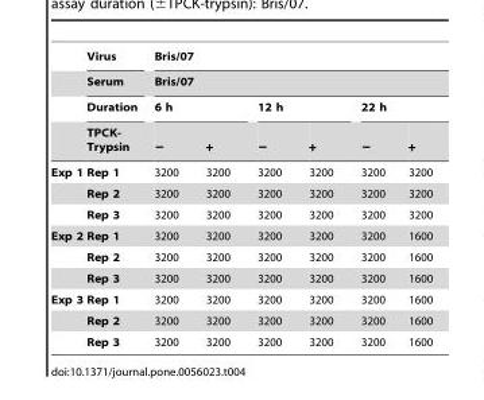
<table><thead><tr><td rowspan="4"></td><td rowspan="4">Virus Serum Duration TPCK- Trypsin</td><td rowspan="2" colspan="6">Bris/07 Bris/07</td></tr><tr></tr><tr><td colspan="2">6 h</td><td colspan="2">12 h</td><td colspan="2">22 h</td></tr><tr><td>−</td><td>+</td><td>−</td><td>+</td><td>−</td><td>+</td></tr></thead><tbody><tr><td rowspan="3">Exp 1</td><td>Rep 1</td><td>3200</td><td>3200</td><td>3200</td><td>3200</td><td>3200</td><td>3200</td></tr><tr><td>Rep 2</td><td>3200</td><td>3200</td><td>3200</td><td>3200</td><td>3200</td><td>3200</td></tr><tr><td>Rep 3</td><td>3200</td><td>3200</td><td>3200</td><td>3200</td><td>3200</td><td>3200</td></tr><tr><td rowspan="3">Exp 2</td><td>Rep 1</td><td>3200</td><td>3200</td><td>3200</td><td>3200</td><td>3200</td><td>1600</td></tr><tr><td>Rep 2</td><td>3200</td><td>3200</td><td>3200</td><td>3200</td><td>3200</td><td>1600</td></tr><tr><td>Rep 3</td><td>3200</td><td>3200</td><td>3200</td><td>3200</td><td>3200</td><td>1600</td></tr><tr><td rowspan="3">Exp 3</td><td>Rep 1</td><td>3200</td><td>3200</td><td>3200</td><td>3200</td><td>3200</td><td>1600</td></tr><tr><td>Rep 2</td><td>3200</td><td>3200</td><td>3200</td><td>3200</td><td>3200</td><td>1600</td></tr><tr><td>Rep 3</td><td>3200</td><td>3200</td><td>3200</td><td>3200</td><td>3200</td><td>1600</td></tr></tbody></table>